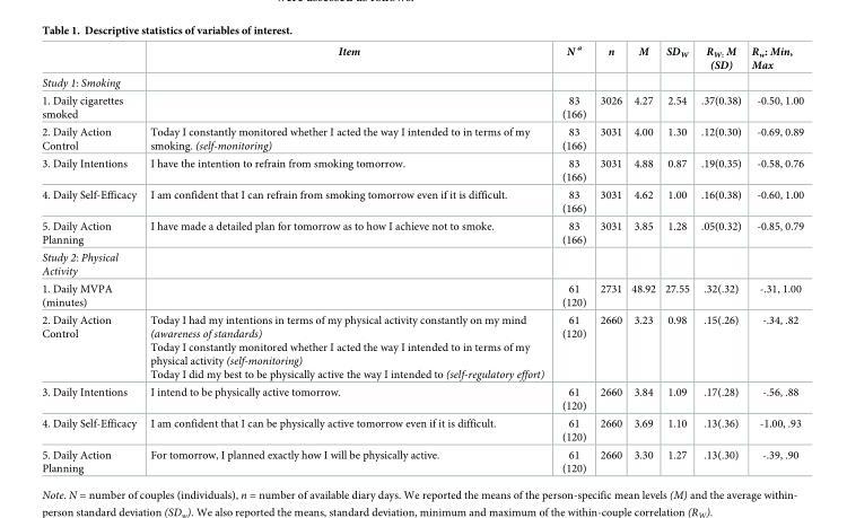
<table><thead><tr><td></td><td>Item</td><td>N <sup>a</sup></td><td>n</td><td>M</td><td>SD<sub>W</sub></td><td>R<sub>W:</sub> M (SD)</td><td>R<sub>w</sub>: Min, Max</td></tr></thead><tbody><tr><td colspan="8">Study 1: Smoking</td></tr><tr><td>1. Daily cigarettes smoked</td><td></td><td>83 (166)</td><td>3026</td><td>4.27</td><td>2.54</td><td>.37(0.38)</td><td>-0.50, 1.00</td></tr><tr><td>2. Daily Action Control</td><td>Today I constantly monitored whether I acted the way I intended to in terms of my smoking. (self-monitoring)</td><td>83 (166)</td><td>3031</td><td>4.00</td><td>1.30</td><td>.12(0.30)</td><td>-0.69, 0.89</td></tr><tr><td>3. Daily Intentions</td><td>I have the intention to refrain from smoking tomorrow.</td><td>83 (166)</td><td>3031</td><td>4.88</td><td>0.87</td><td>.19(0.35)</td><td>-0.58, 0.76</td></tr><tr><td>4. Daily Self-Efficacy</td><td>I am confident that I can refrain from smoking tomorrow even if it is difficult.</td><td>83 (166)</td><td>3031</td><td>4.62</td><td>1.00</td><td>.16(0.38)</td><td>-0.60, 1.00</td></tr><tr><td>5. Daily Action Planning</td><td>I have made a detailed plan for tomorrow as to how I achieve not to smoke.</td><td>83 (166)</td><td>3031</td><td>3.85</td><td>1.28</td><td>.05(0.32)</td><td>-0.85, 0.79</td></tr><tr><td colspan="8">Study 2: Physical Activity</td></tr><tr><td>1. Daily MVPA (minutes)</td><td></td><td>61 (120)</td><td>2731</td><td>48.92</td><td>27.55</td><td>.32(.32)</td><td>-.31, 1.00</td></tr><tr><td>2. Daily Action Control</td><td>Today I had my intentions in terms of my physical activity constantly on my mind (awareness of standards) Today I constantly monitored whether I acted the way I intended to in terms of my physical activity (self-monitoring) Today I did my best to be physically active the way I intended to (self-regulatory effort)</td><td>61 (120)</td><td>2660</td><td>3.23</td><td>0.98</td><td>.15(.26)</td><td>-.34, .82</td></tr><tr><td>3. Daily Intentions</td><td>I intend to be physically active tomorrow.</td><td>61 (120)</td><td>2660</td><td>3.84</td><td>1.09</td><td>.17(.28)</td><td>-.56, .88</td></tr><tr><td>4. Daily Self-Efficacy</td><td>I am confident that I can be physically active tomorrow even if it is difficult.</td><td>61 (120)</td><td>2660</td><td>3.69</td><td>1.10</td><td>.13(.36)</td><td>-1.00, .93</td></tr><tr><td>5. Daily Action Planning</td><td>For tomorrow, I planned exactly how I will be physically active.</td><td>61 (120)</td><td>2660</td><td>3.30</td><td>1.27</td><td>.13(.30)</td><td>-.39, .90</td></tr></tbody></table>